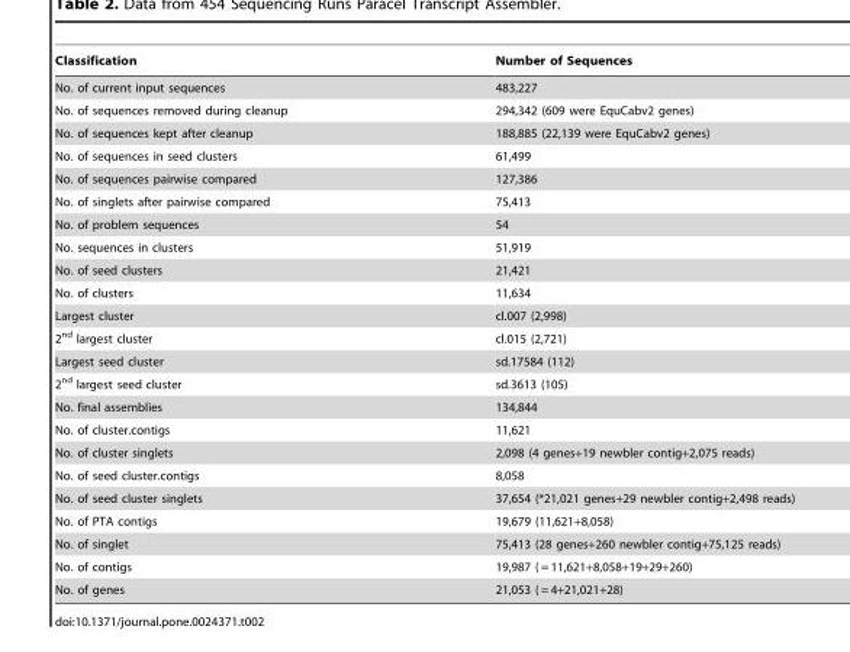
<table><thead><tr><td>Classification</td><td>Number of Sequences</td></tr></thead><tbody><tr><td>No. of current input sequences</td><td>483,227</td></tr><tr><td>No. of sequences removed during cleanup</td><td>294,342 (609 were EquCabv2 genes)</td></tr><tr><td>No. of sequences kept after cleanup</td><td>188,885 (22,139 were EquCabv2 genes)</td></tr><tr><td>No. of sequences in seed clusters</td><td>61,499</td></tr><tr><td>No. of sequences pairwise compared</td><td>127,386</td></tr><tr><td>No. of singlets after pairwise compared</td><td>75,413</td></tr><tr><td>No. of problem sequences</td><td>54</td></tr><tr><td>No. sequences in clusters</td><td>51,919</td></tr><tr><td>No. of seed clusters</td><td>21,421</td></tr><tr><td>No. of clusters</td><td>11,634</td></tr><tr><td>Largest cluster</td><td>cl.007 (2,998)</td></tr><tr><td>2<sup>nd</sup> largest cluster</td><td>cl.015 (2,721)</td></tr><tr><td>Largest seed cluster</td><td>sd.17584 (112)</td></tr><tr><td>2<sup>nd</sup> largest seed cluster</td><td>sd.3613 (105)</td></tr><tr><td>No. final assemblies</td><td>134,844</td></tr><tr><td>No. of cluster.contigs</td><td>11,621</td></tr><tr><td>No. of cluster singlets</td><td>2,098 (4 genes+19 newbler contig+2,075 reads)</td></tr><tr><td>No. of seed cluster.contigs</td><td>8,058</td></tr><tr><td>No. of seed cluster singlets</td><td>37,654 (*21,021 genes+29 newbler contig+2,498 reads)</td></tr><tr><td>No. of PTA contigs</td><td>19,679 (11,621+8,058)</td></tr><tr><td>No. of singlet</td><td>75,413 (28 genes+260 newbler contig+75,125 reads)</td></tr><tr><td>No. of contigs</td><td>19,987 ( = 11,621+8,058+19+29+260)</td></tr><tr><td>No. of genes</td><td>21,053 ( = 4+21,021+28)</td></tr></tbody></table>